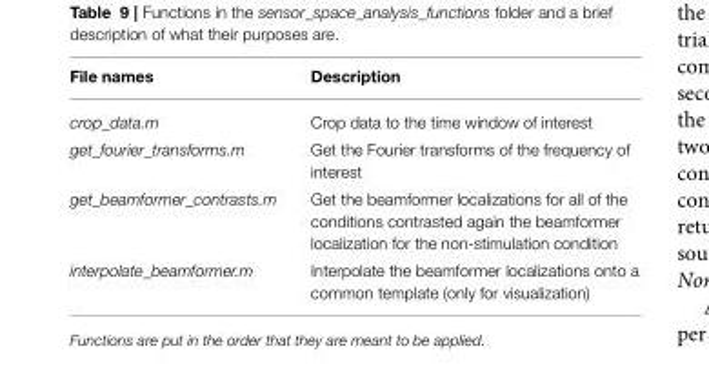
<table><thead><tr><td>File names</td><td>Description</td></tr></thead><tbody><tr><td>crop_data.m</td><td>Crop data to the time window of interest</td></tr><tr><td>get_fourier_transforms.m</td><td>Get the Fourier transforms of the frequency of interest</td></tr><tr><td>get_beamformer_contrasts.m</td><td>Get the beamformer localizations for all of the conditions contrasted again the beamformer localization for the non-stimulation condition</td></tr><tr><td>interpolate_beamformer.m</td><td>Interpolate the beamformer localizations onto a common template (only for visualization)</td></tr></tbody></table>